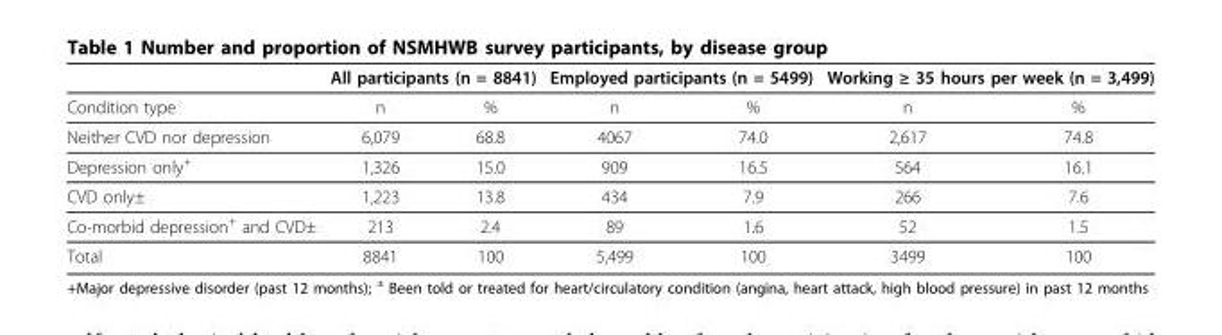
<table><thead><tr><td rowspan="2">Condition type</td><td colspan="2">All participants (n = 8841)</td><td colspan="2">Employed participants (n = 5499)</td><td colspan="2">Working ≥ 35 hours per week (n = 3,499)</td></tr><tr><td>n</td><td>%</td><td>n</td><td>%</td><td>n</td><td>%</td></tr></thead><tbody><tr><td>Neither CVD nor depression</td><td>6,079</td><td>68.8</td><td>4067</td><td>74.0</td><td>2,617</td><td>74.8</td></tr><tr><td>Depression only<sup>+</sup></td><td>1,326</td><td>15.0</td><td>909</td><td>16.5</td><td>564</td><td>16.1</td></tr><tr><td>CVD only±</td><td>1,223</td><td>13.8</td><td>434</td><td>7.9</td><td>266</td><td>7.6</td></tr><tr><td>Co-morbid depression<sup>+</sup> and CVD±</td><td>213</td><td>2.4</td><td>89</td><td>1.6</td><td>52</td><td>1.5</td></tr><tr><td>Total</td><td>8841</td><td>100</td><td>5,499</td><td>100</td><td>3499</td><td>100</td></tr></tbody></table>